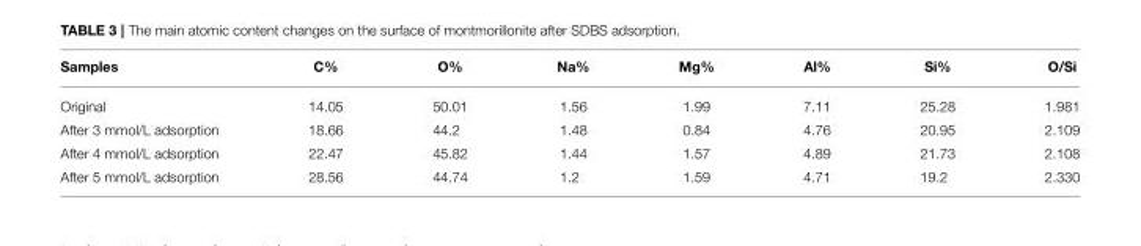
<table><thead><tr><td>Samples</td><td>C%</td><td>O%</td><td>Na%</td><td>Mg%</td><td>Al%</td><td>Si%</td><td>O/Si</td></tr></thead><tbody><tr><td>Original</td><td>14.05</td><td>50.01</td><td>1.56</td><td>1.99</td><td>7.11</td><td>25.28</td><td>1.981</td></tr><tr><td>After 3 mmol/L adsorption</td><td>18.66</td><td>44.2</td><td>1.48</td><td>0.84</td><td>4.76</td><td>20.95</td><td>2.109</td></tr><tr><td>After 4 mmol/L adsorption</td><td>22.47</td><td>45.82</td><td>1.44</td><td>1.57</td><td>4.89</td><td>21.73</td><td>2.108</td></tr><tr><td>After 5 mmol/L adsorption</td><td>28.56</td><td>44.74</td><td>1.2</td><td>1.59</td><td>4.71</td><td>19.2</td><td>2.330</td></tr></tbody></table>